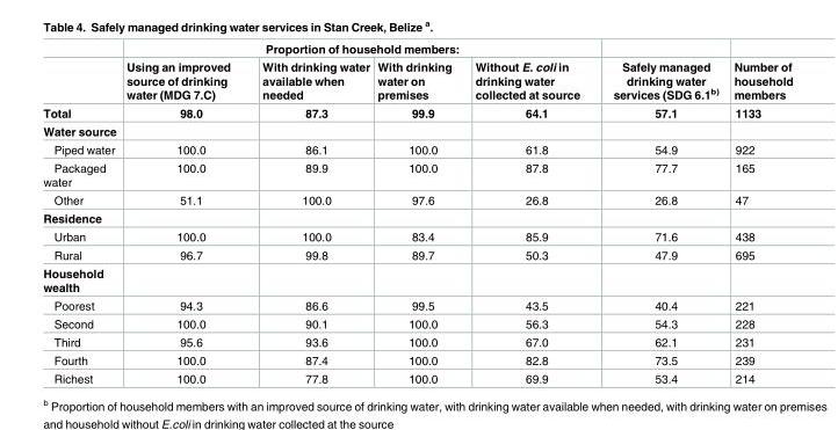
<table><thead><tr><td rowspan="2"></td><td colspan="4">Proportion of household members:</td><td rowspan="2">Safely managed drinking water services (SDG 6.1<sup>b)</sup></td><td rowspan="2">Number of household members</td></tr><tr><td>Using an improved source of drinking water (MDG 7.C)</td><td>With drinking water available when needed</td><td>With drinking water on premises</td><td>Without E. coli in drinking water collected at source</td></tr></thead><tbody><tr><td>Total</td><td>98.0</td><td>87.3</td><td>99.9</td><td>64.1</td><td>57.1</td><td>1133</td></tr><tr><td colspan="7">Water source</td></tr><tr><td>Piped water</td><td>100.0</td><td>86.1</td><td>100.0</td><td>61.8</td><td>54.9</td><td>922</td></tr><tr><td>Packaged water</td><td>100.0</td><td>89.9</td><td>100.0</td><td>87.8</td><td>77.7</td><td>165</td></tr><tr><td>Other</td><td>51.1</td><td>100.0</td><td>97.6</td><td>26.8</td><td>26.8</td><td>47</td></tr><tr><td colspan="7">Residence</td></tr><tr><td>Urban</td><td>100.0</td><td>100.0</td><td>83.4</td><td>85.9</td><td>71.6</td><td>438</td></tr><tr><td>Rural</td><td>96.7</td><td>99.8</td><td>89.7</td><td>50.3</td><td>47.9</td><td>695</td></tr><tr><td colspan="7">Household wealth</td></tr><tr><td>Poorest</td><td>94.3</td><td>86.6</td><td>99.5</td><td>43.5</td><td>40.4</td><td>221</td></tr><tr><td>Second</td><td>100.0</td><td>90.1</td><td>100.0</td><td>56.3</td><td>54.3</td><td>228</td></tr><tr><td>Third</td><td>95.6</td><td>93.6</td><td>100.0</td><td>67.0</td><td>62.1</td><td>231</td></tr><tr><td>Fourth</td><td>100.0</td><td>87.4</td><td>100.0</td><td>82.8</td><td>73.5</td><td>239</td></tr><tr><td>Richest</td><td>100.0</td><td>77.8</td><td>100.0</td><td>69.9</td><td>53.4</td><td>214</td></tr></tbody></table>